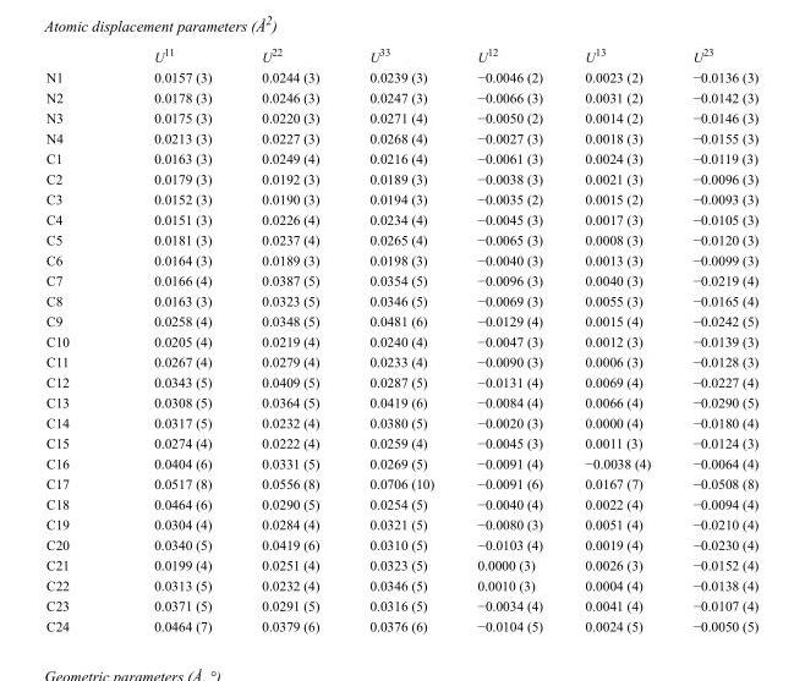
<table><thead><tr><td></td><td>U<sup>11</sup></td><td>U<sup>22</sup></td><td>U<sup>33</sup></td><td>U<sup>12</sup></td><td>U<sup>13</sup></td><td>U<sup>23</sup></td></tr></thead><tbody><tr><td>N1</td><td>0.0157 (3)</td><td>0.0244 (3)</td><td>0.0239 (3)</td><td>−0.0046 (2)</td><td>0.0023 (2)</td><td>−0.0136 (3)</td></tr><tr><td>N2</td><td>0.0178 (3)</td><td>0.0246 (3)</td><td>0.0247 (3)</td><td>−0.0066 (3)</td><td>0.0031 (2)</td><td>−0.0142 (3)</td></tr><tr><td>N3</td><td>0.0175 (3)</td><td>0.0220 (3)</td><td>0.0271 (4)</td><td>−0.0050 (2)</td><td>0.0014 (2)</td><td>−0.0146 (3)</td></tr><tr><td>N4</td><td>0.0213 (3)</td><td>0.0227 (3)</td><td>0.0268 (4)</td><td>−0.0027 (3)</td><td>0.0018 (3)</td><td>−0.0155 (3)</td></tr><tr><td>C1</td><td>0.0163 (3)</td><td>0.0249 (4)</td><td>0.0216 (4)</td><td>−0.0061 (3)</td><td>0.0024 (3)</td><td>−0.0119 (3)</td></tr><tr><td>C2</td><td>0.0179 (3)</td><td>0.0192 (3)</td><td>0.0189 (3)</td><td>−0.0038 (3)</td><td>0.0021 (3)</td><td>−0.0096 (3)</td></tr><tr><td>C3</td><td>0.0152 (3)</td><td>0.0190 (3)</td><td>0.0194 (3)</td><td>−0.0035 (2)</td><td>0.0015 (2)</td><td>−0.0093 (3)</td></tr><tr><td>C4</td><td>0.0151 (3)</td><td>0.0226 (4)</td><td>0.0234 (4)</td><td>−0.0045 (3)</td><td>0.0017 (3)</td><td>−0.0105 (3)</td></tr><tr><td>C5</td><td>0.0181 (3)</td><td>0.0237 (4)</td><td>0.0265 (4)</td><td>−0.0065 (3)</td><td>0.0008 (3)</td><td>−0.0120 (3)</td></tr><tr><td>C6</td><td>0.0164 (3)</td><td>0.0189 (3)</td><td>0.0198 (3)</td><td>−0.0040 (3)</td><td>0.0013 (3)</td><td>−0.0099 (3)</td></tr><tr><td>C7</td><td>0.0166 (4)</td><td>0.0387 (5)</td><td>0.0354 (5)</td><td>−0.0096 (3)</td><td>0.0040 (3)</td><td>−0.0219 (4)</td></tr><tr><td>C8</td><td>0.0163 (3)</td><td>0.0323 (5)</td><td>0.0346 (5)</td><td>−0.0069 (3)</td><td>0.0055 (3)</td><td>−0.0165 (4)</td></tr><tr><td>C9</td><td>0.0258 (4)</td><td>0.0348 (5)</td><td>0.0481 (6)</td><td>−0.0129 (4)</td><td>0.0015 (4)</td><td>−0.0242 (5)</td></tr><tr><td>C10</td><td>0.0205 (4)</td><td>0.0219 (4)</td><td>0.0240 (4)</td><td>−0.0047 (3)</td><td>0.0012 (3)</td><td>−0.0139 (3)</td></tr><tr><td>C11</td><td>0.0267 (4)</td><td>0.0279 (4)</td><td>0.0233 (4)</td><td>−0.0090 (3)</td><td>0.0006 (3)</td><td>−0.0128 (3)</td></tr><tr><td>C12</td><td>0.0343 (5)</td><td>0.0409 (5)</td><td>0.0287 (5)</td><td>−0.0131 (4)</td><td>0.0069 (4)</td><td>−0.0227 (4)</td></tr><tr><td>C13</td><td>0.0308 (5)</td><td>0.0364 (5)</td><td>0.0419 (6)</td><td>−0.0084 (4)</td><td>0.0066 (4)</td><td>−0.0290 (5)</td></tr><tr><td>C14</td><td>0.0317 (5)</td><td>0.0232 (4)</td><td>0.0380 (5)</td><td>−0.0020 (3)</td><td>0.0000 (4)</td><td>−0.0180 (4)</td></tr><tr><td>C15</td><td>0.0274 (4)</td><td>0.0222 (4)</td><td>0.0259 (4)</td><td>−0.0045 (3)</td><td>0.0011 (3)</td><td>−0.0124 (3)</td></tr><tr><td>C16</td><td>0.0404 (6)</td><td>0.0331 (5)</td><td>0.0269 (5)</td><td>−0.0091 (4)</td><td>−0.0038 (4)</td><td>−0.0064 (4)</td></tr><tr><td>C17</td><td>0.0517 (8)</td><td>0.0556 (8)</td><td>0.0706 (10)</td><td>−0.0091 (6)</td><td>0.0167 (7)</td><td>−0.0508 (8)</td></tr><tr><td>C18</td><td>0.0464 (6)</td><td>0.0290 (5)</td><td>0.0254 (5)</td><td>−0.0040 (4)</td><td>0.0022 (4)</td><td>−0.0094 (4)</td></tr><tr><td>C19</td><td>0.0304 (4)</td><td>0.0284 (4)</td><td>0.0321 (5)</td><td>−0.0080 (3)</td><td>0.0051 (4)</td><td>−0.0210 (4)</td></tr><tr><td>C20</td><td>0.0340 (5)</td><td>0.0419 (6)</td><td>0.0310 (5)</td><td>−0.0103 (4)</td><td>0.0019 (4)</td><td>−0.0230 (4)</td></tr><tr><td>C21</td><td>0.0199 (4)</td><td>0.0251 (4)</td><td>0.0323 (5)</td><td>0.0000 (3)</td><td>0.0026 (3)</td><td>−0.0152 (4)</td></tr><tr><td>C22</td><td>0.0313 (5)</td><td>0.0232 (4)</td><td>0.0346 (5)</td><td>0.0010 (3)</td><td>0.0004 (4)</td><td>−0.0138 (4)</td></tr><tr><td>C23</td><td>0.0371 (5)</td><td>0.0291 (5)</td><td>0.0316 (5)</td><td>−0.0034 (4)</td><td>0.0041 (4)</td><td>−0.0107 (4)</td></tr><tr><td>C24</td><td>0.0464 (7)</td><td>0.0379 (6)</td><td>0.0376 (6)</td><td>−0.0104 (5)</td><td>0.0024 (5)</td><td>−0.0050 (5)</td></tr></tbody></table>